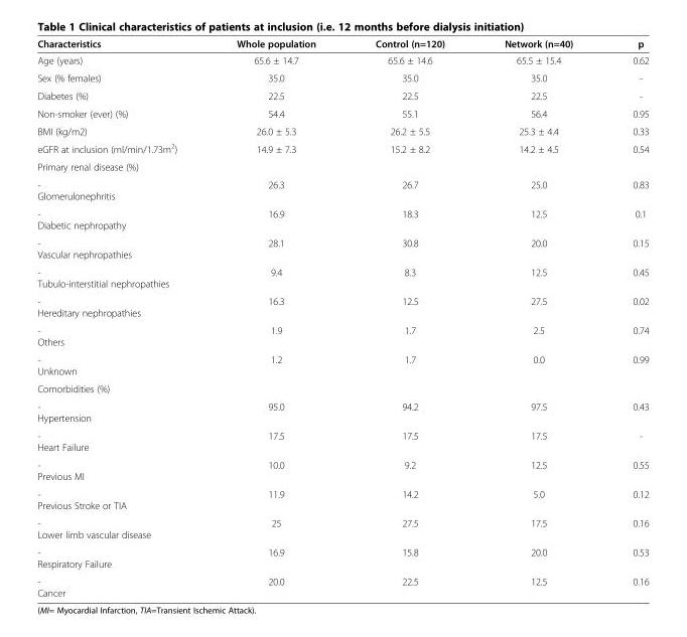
<table><thead><tr><td>Characteristics</td><td>Whole population</td><td>Control (n=120)</td><td>Network (n=40)</td><td>p</td></tr></thead><tbody><tr><td>Age (years)</td><td>65.6 ± 14.7</td><td>65.6 ± 14.6</td><td>65.5 ± 15.4</td><td>0.62</td></tr><tr><td>Sex (% females)</td><td>35.0</td><td>35.0</td><td>35.0</td><td>-</td></tr><tr><td>Diabetes (%)</td><td>22.5</td><td>22.5</td><td>22.5</td><td>-</td></tr><tr><td>Non-smoker (ever) (%)</td><td>54.4</td><td>55.1</td><td>56.4</td><td>0.95</td></tr><tr><td>BMI (kg/m2)</td><td>26.0 ± 5.3</td><td>26.2 ± 5.5</td><td>25.3 ± 4.4</td><td>0.33</td></tr><tr><td>eGFR at inclusion (ml/min/1.73m<sup>2</sup>)</td><td>14.9 ± 7.3</td><td>15.2 ± 8.2</td><td>14.2 ± 4.5</td><td>0.54</td></tr><tr><td colspan="5">Primary renal disease (%)</td></tr><tr><td>- Glomerulonephritis</td><td>26.3</td><td>26.7</td><td>25.0</td><td>0.83</td></tr><tr><td>- Diabetic nephropathy</td><td>16.9</td><td>18.3</td><td>12.5</td><td>0.1</td></tr><tr><td>- Vascular nephropathies</td><td>28.1</td><td>30.8</td><td>20.0</td><td>0.15</td></tr><tr><td>- Tubulo-interstitial nephropathies</td><td>9.4</td><td>8.3</td><td>12.5</td><td>0.45</td></tr><tr><td>- Hereditary nephropathies</td><td>16.3</td><td>12.5</td><td>27.5</td><td>0.02</td></tr><tr><td>- Others</td><td>1.9</td><td>1.7</td><td>2.5</td><td>0.74</td></tr><tr><td>- Unknown</td><td>1.2</td><td>1.7</td><td>0.0</td><td>0.99</td></tr><tr><td colspan="5">Comorbidities (%)</td></tr><tr><td>- Hypertension</td><td>95.0</td><td>94.2</td><td>97.5</td><td>0.43</td></tr><tr><td>- Heart Failure</td><td>17.5</td><td>17.5</td><td>17.5</td><td>-</td></tr><tr><td>- Previous MI</td><td>10.0</td><td>9.2</td><td>12.5</td><td>0.55</td></tr><tr><td>- Previous Stroke or TIA</td><td>11.9</td><td>14.2</td><td>5.0</td><td>0.12</td></tr><tr><td>- Lower limb vascular disease</td><td>25</td><td>27.5</td><td>17.5</td><td>0.16</td></tr><tr><td>- Respiratory Failure</td><td>16.9</td><td>15.8</td><td>20.0</td><td>0.53</td></tr><tr><td>- Cancer</td><td>20.0</td><td>22.5</td><td>12.5</td><td>0.16</td></tr></tbody></table>